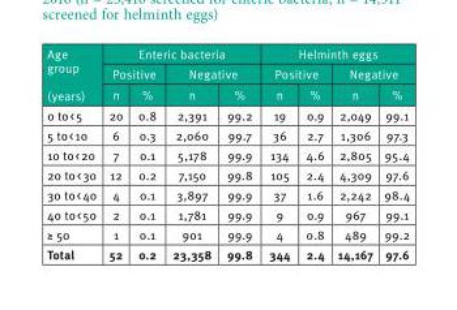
<table><thead><tr><td rowspan="3">Age group (years)</td><td colspan="4">Enteric bacteria</td><td colspan="4">Helminth eggs</td></tr><tr><td colspan="2">Positive</td><td colspan="2">Negative</td><td colspan="2">Positive</td><td colspan="2">Negative</td></tr><tr><td>n</td><td>%</td><td>n</td><td>%</td><td>n</td><td>%</td><td>n</td><td>%</td></tr></thead><tbody><tr><td>0 to &lt; 5</td><td>20</td><td>0.8</td><td>2,391</td><td>99.2</td><td>19</td><td>0.9</td><td>2,049</td><td>99.1</td></tr><tr><td>5 to &lt; 10</td><td>6</td><td>0.3</td><td>2,060</td><td>99.7</td><td>36</td><td>2.7</td><td>1,306</td><td>97.3</td></tr><tr><td>10 to &lt; 20</td><td>7</td><td>0.1</td><td>5,178</td><td>99.9</td><td>134</td><td>4.6</td><td>2,805</td><td>95.4</td></tr><tr><td>20 to &lt; 30</td><td>12</td><td>0.2</td><td>7,150</td><td>99.8</td><td>105</td><td>2.4</td><td>4,309</td><td>97.6</td></tr><tr><td>30 to &lt; 40</td><td>4</td><td>0.1</td><td>3,897</td><td>99.9</td><td>37</td><td>1.6</td><td>2,242</td><td>98.4</td></tr><tr><td>40 to &lt; 50</td><td>2</td><td>0.1</td><td>1,781</td><td>99.9</td><td>9</td><td>0.9</td><td>967</td><td>99.1</td></tr><tr><td>≥ 50</td><td>1</td><td>0.1</td><td>901</td><td>99.9</td><td>4</td><td>0.8</td><td>489</td><td>99.2</td></tr><tr><td>Total</td><td>52</td><td>0.2</td><td>23,358</td><td>99.8</td><td>344</td><td>2.4</td><td>14,167</td><td>97.6</td></tr></tbody></table>